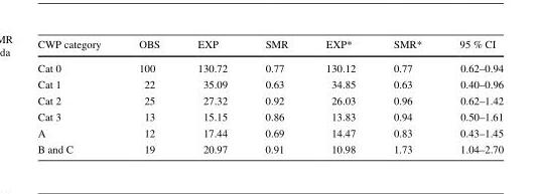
<table><thead><tr><td>CWP category</td><td>OBS</td><td>EXP</td><td>SMR</td><td>EXP*</td><td>SMR*</td><td>95 % CI</td></tr></thead><tbody><tr><td>Cat 0</td><td>100</td><td>130.72</td><td>0.77</td><td>130.12</td><td>0.77</td><td>0.62–0.94</td></tr><tr><td>Cat 1</td><td>22</td><td>35.09</td><td>0.63</td><td>34.85</td><td>0.63</td><td>0.40–0.96</td></tr><tr><td>Cat 2</td><td>25</td><td>27.32</td><td>0.92</td><td>26.03</td><td>0.96</td><td>0.62–1.42</td></tr><tr><td>Cat 3</td><td>13</td><td>15.15</td><td>0.86</td><td>13.83</td><td>0.94</td><td>0.50–1.61</td></tr><tr><td>A</td><td>12</td><td>17.44</td><td>0.69</td><td>14.47</td><td>0.83</td><td>0.43–1.45</td></tr><tr><td>B and C</td><td>19</td><td>20.97</td><td>0.91</td><td>10.98</td><td>1.73</td><td>1.04–2.70</td></tr></tbody></table>